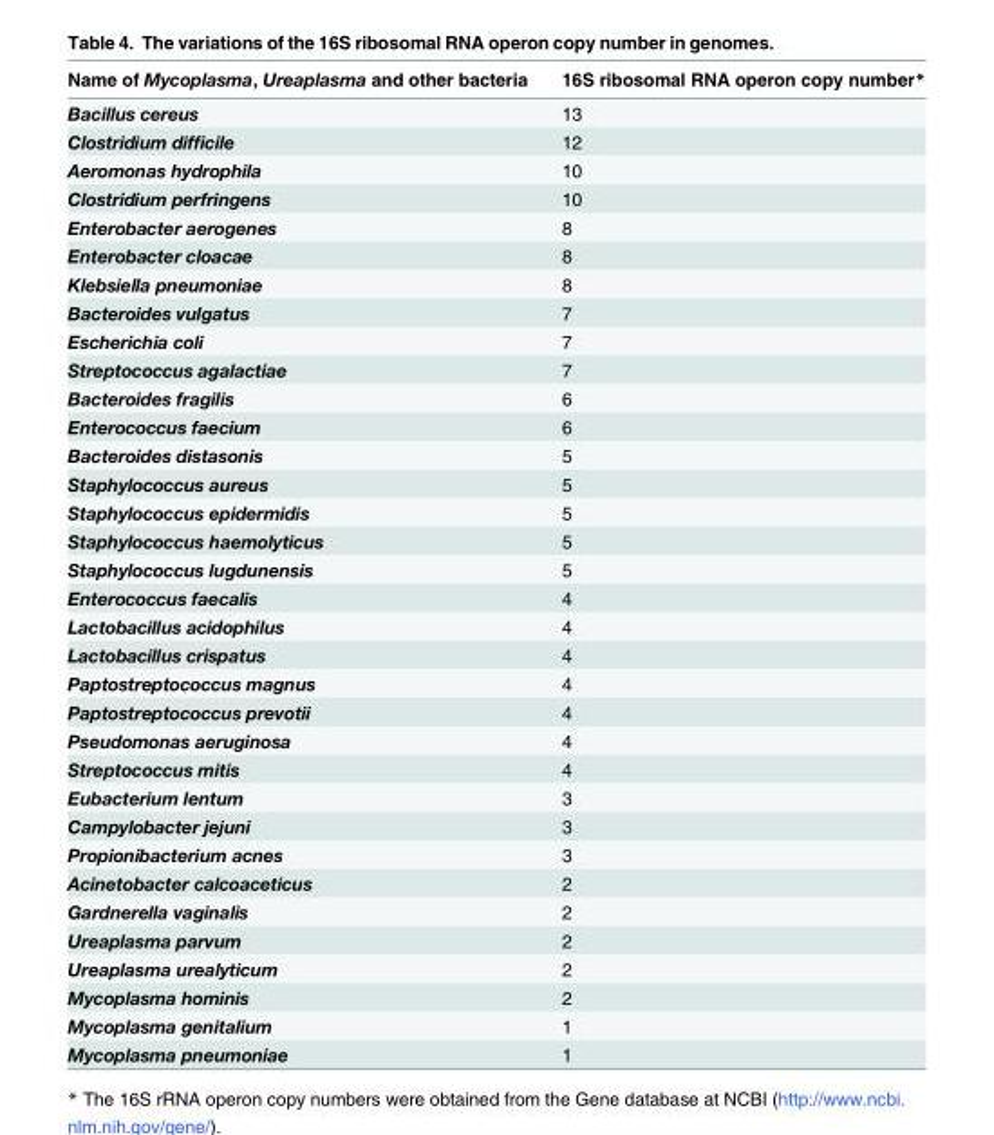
<table><thead><tr><td>Name of Mycoplasma, Ureaplasma and other bacteria</td><td>16S ribosomal RNA operon copy number*</td></tr></thead><tbody><tr><td>Bacillus cereus</td><td>13</td></tr><tr><td>Clostridium difficile</td><td>12</td></tr><tr><td>Aeromonas hydrophila</td><td>10</td></tr><tr><td>Clostridium perfringens</td><td>10</td></tr><tr><td>Enterobacter aerogenes</td><td>8</td></tr><tr><td>Enterobacter cloacae</td><td>8</td></tr><tr><td>Klebsiella pneumoniae</td><td>8</td></tr><tr><td>Bacteroides vulgatus</td><td>7</td></tr><tr><td>Escherichia coli</td><td>7</td></tr><tr><td>Streptococcus agalactiae</td><td>7</td></tr><tr><td>Bacteroides fragilis</td><td>6</td></tr><tr><td>Enterococcus faecium</td><td>6</td></tr><tr><td>Bacteroides distasonis</td><td>5</td></tr><tr><td>Staphylococcus aureus</td><td>5</td></tr><tr><td>Staphylococcus epidermidis</td><td>5</td></tr><tr><td>Staphylococcus haemolyticus</td><td>5</td></tr><tr><td>Staphylococcus lugdunensis</td><td>5</td></tr><tr><td>Enterococcus faecalis</td><td>4</td></tr><tr><td>Lactobacillus acidophilus</td><td>4</td></tr><tr><td>Lactobacillus crispatus</td><td>4</td></tr><tr><td>Paptostreptococcus magnus</td><td>4</td></tr><tr><td>Paptostreptococcus prevotii</td><td>4</td></tr><tr><td>Pseudomonas aeruginosa</td><td>4</td></tr><tr><td>Streptococcus mitis</td><td>4</td></tr><tr><td>Eubacterium lentum</td><td>3</td></tr><tr><td>Campylobacter jejuni</td><td>3</td></tr><tr><td>Propionibacterium acnes</td><td>3</td></tr><tr><td>Acinetobacter calcoaceticus</td><td>2</td></tr><tr><td>Gardnerella vaginalis</td><td>2</td></tr><tr><td>Ureaplasma parvum</td><td>2</td></tr><tr><td>Ureaplasma urealyticum</td><td>2</td></tr><tr><td>Mycoplasma hominis</td><td>2</td></tr><tr><td>Mycoplasma genitalium</td><td>1</td></tr><tr><td>Mycoplasma pneumoniae</td><td>1</td></tr></tbody></table>